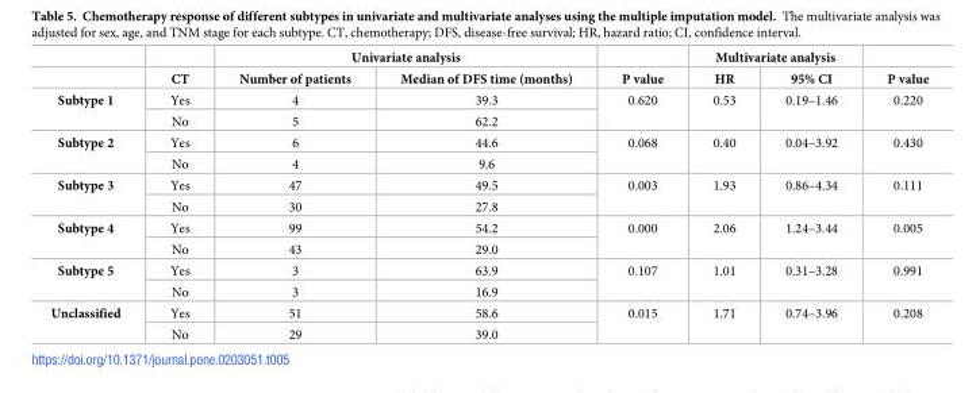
<table><thead><tr><td rowspan="2"></td><td rowspan="2">CT</td><td colspan="2">Univariate analysis</td><td rowspan="2">P value</td><td colspan="2">Multivariate analysis</td><td rowspan="2">P value</td></tr><tr><td>Number of patients</td><td>Median of DFS time (months)</td><td>HR</td><td>95% CI</td></tr></thead><tbody><tr><td rowspan="2">Subtype 1</td><td>Yes</td><td>4</td><td>39.3</td><td rowspan="2">0.620</td><td rowspan="2">0.53</td><td rowspan="2">0.19–1.46</td><td rowspan="2">0.220</td></tr><tr><td>No</td><td>5</td><td>62.2</td></tr><tr><td rowspan="2">Subtype 2</td><td>Yes</td><td>6</td><td>44.6</td><td rowspan="2">0.068</td><td rowspan="2">0.40</td><td rowspan="2">0.04–3.92</td><td rowspan="2">0.430</td></tr><tr><td>No</td><td>4</td><td>9.6</td></tr><tr><td rowspan="2">Subtype 3</td><td>Yes</td><td>47</td><td>49.5</td><td rowspan="2">0.003</td><td rowspan="2">1.93</td><td rowspan="2">0.86–4.34</td><td rowspan="2">0.111</td></tr><tr><td>No</td><td>30</td><td>27.8</td></tr><tr><td rowspan="2">Subtype 4</td><td>Yes</td><td>99</td><td>54.2</td><td rowspan="2">0.000</td><td rowspan="2">2.06</td><td rowspan="2">1.24–3.44</td><td rowspan="2">0.005</td></tr><tr><td>No</td><td>43</td><td>29.0</td></tr><tr><td rowspan="2">Subtype 5</td><td>Yes</td><td>3</td><td>63.9</td><td rowspan="2">0.107</td><td rowspan="2">1.01</td><td rowspan="2">0.31–3.28</td><td rowspan="2">0.991</td></tr><tr><td>No</td><td>3</td><td>16.9</td></tr><tr><td rowspan="2">Unclassified</td><td>Yes</td><td>51</td><td>58.6</td><td rowspan="2">0.015</td><td rowspan="2">1.71</td><td rowspan="2">0.74–3.96</td><td rowspan="2">0.208</td></tr><tr><td>No</td><td>29</td><td>39.0</td></tr></tbody></table>